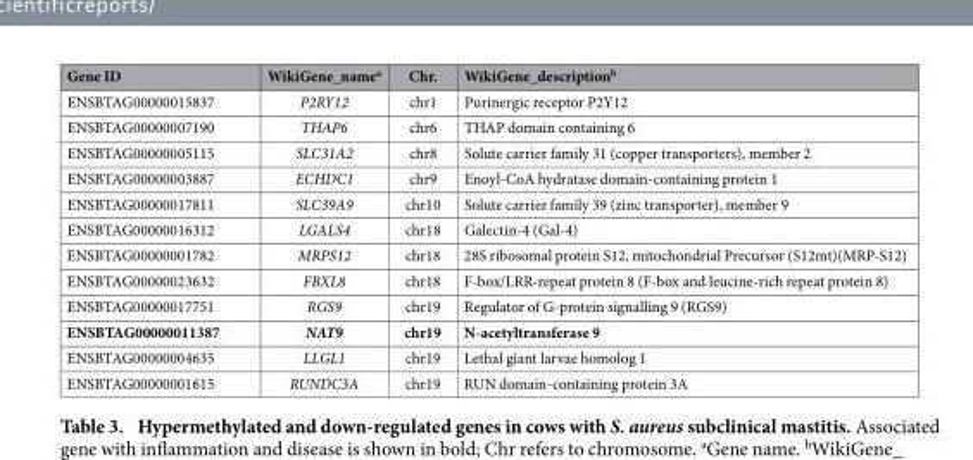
<table><thead><tr><td>Gene ID</td><td>WikiGene_name<sup>a</sup></td><td>Chr.</td><td>WikiGene_description<sup>b</sup></td></tr></thead><tbody><tr><td>ENSBTAG00000015837</td><td>P2RY12</td><td>chr1</td><td>Purinergic receptor P2Y12</td></tr><tr><td>ENSBTAG00000007190</td><td>THAP6</td><td>chr6</td><td>THAP domain containing 6</td></tr><tr><td>ENSBTAG00000005115</td><td>SLC31A2</td><td>chr8</td><td>Solute carrier family 31 (copper transporters), member 2</td></tr><tr><td>ENSBTAG00000003887</td><td>ECHDC1</td><td>chr9</td><td>Enoyl-CoA hydratase domain-containing protein 1</td></tr><tr><td>ENSBTAG00000017811</td><td>SLC39A9</td><td>chr10</td><td>Solute carrier family 39 (zinc transporter), member 9</td></tr><tr><td>ENSBTAG00000016312</td><td>LGALS4</td><td>chr18</td><td>Galectin-4 (Gal-4)</td></tr><tr><td>ENSBTAG00000001782</td><td>MRPS12</td><td>chr18</td><td>28S ribosomal protein S12, mitochondrial Precursor (S12mt)(MRP-S12)</td></tr><tr><td>ENSBTAG00000023632</td><td>FBXL8</td><td>chr18</td><td>F-box/LRR-repeat protein 8 (F-box and leucine-rich repeat protein 8)</td></tr><tr><td>ENSBTAG00000017751</td><td>RGS9</td><td>chr19</td><td>Regulator of G-protein signalling 9 (RGS9)</td></tr><tr><td>ENSBTAG00000011387</td><td>NAT9</td><td>chr19</td><td>N-acetyltransferase 9</td></tr><tr><td>ENSBTAG00000004635</td><td>LLGL1</td><td>chr19</td><td>Lethal giant larvae homolog 1</td></tr><tr><td>ENSBTAG00000001615</td><td>RUNDC3A</td><td>chr19</td><td>RUN domain-containing protein 3A</td></tr></tbody></table>